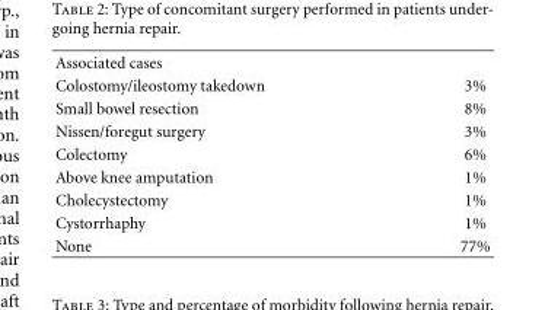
<table><tbody><tr><td colspan="2">Associated cases</td></tr><tr><td>Colostomy/ileostomy takedown</td><td>3%</td></tr><tr><td>Small bowel resection</td><td>8%</td></tr><tr><td>Nissen/foregut surgery</td><td>3%</td></tr><tr><td>Colectomy</td><td>6%</td></tr><tr><td>Above knee amputation</td><td>1%</td></tr><tr><td>Cholecystectomy</td><td>1%</td></tr><tr><td>Cystorrhaphy</td><td>1%</td></tr><tr><td>None</td><td>77%</td></tr></tbody></table>